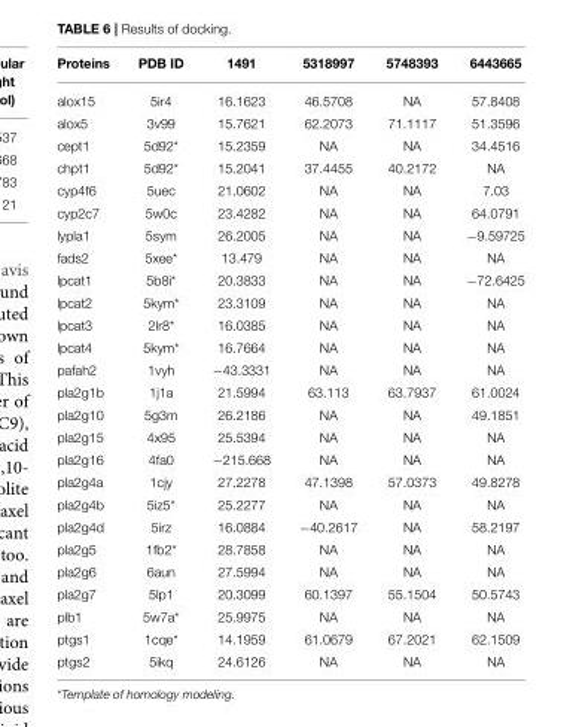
<table><thead><tr><td>Proteins</td><td>PDB ID</td><td>1491</td><td>5318997</td><td>5748393</td><td>6443665</td></tr></thead><tbody><tr><td>alox15</td><td>5ir4</td><td>16.1623</td><td>46.5708</td><td>NA</td><td>57.8408</td></tr><tr><td>alox5</td><td>3v99</td><td>15.7621</td><td>62.2073</td><td>71.1117</td><td>51.3596</td></tr><tr><td>cept1</td><td>5d92*</td><td>15.2359</td><td>NA</td><td>NA</td><td>34.4516</td></tr><tr><td>chpt1</td><td>5d92*</td><td>15.2041</td><td>37.4455</td><td>40.2172</td><td>NA</td></tr><tr><td>cyp4f6</td><td>5uec</td><td>21.0602</td><td>NA</td><td>NA</td><td>7.03</td></tr><tr><td>cyp2c7</td><td>5w0c</td><td>23.4282</td><td>NA</td><td>NA</td><td>64.0791</td></tr><tr><td>lypla1</td><td>5sym</td><td>26.2005</td><td>NA</td><td>NA</td><td>−9.59725</td></tr><tr><td>fads2</td><td>5xee*</td><td>13.479</td><td>NA</td><td>NA</td><td>NA</td></tr><tr><td>lpcat1</td><td>5b8i*</td><td>20.3833</td><td>NA</td><td>NA</td><td>−72.6425</td></tr><tr><td>lpcat2</td><td>5kym*</td><td>23.3109</td><td>NA</td><td>NA</td><td>NA</td></tr><tr><td>lpcat3</td><td>2lr8*</td><td>16.0385</td><td>NA</td><td>NA</td><td>NA</td></tr><tr><td>lpcat4</td><td>5kym*</td><td>16.7664</td><td>NA</td><td>NA</td><td>NA</td></tr><tr><td>pafah2</td><td>1vyh</td><td>−43.3331</td><td>NA</td><td>NA</td><td>NA</td></tr><tr><td>pla2g1b</td><td>1j1a</td><td>21.5994</td><td>63.113</td><td>63.7937</td><td>61.0024</td></tr><tr><td>pla2g10</td><td>5g3m</td><td>26.2186</td><td>NA</td><td>NA</td><td>49.1851</td></tr><tr><td>pla2g15</td><td>4x95</td><td>25.5394</td><td>NA</td><td>NA</td><td>NA</td></tr><tr><td>pla2g16</td><td>4fa0</td><td>−215.668</td><td>NA</td><td>NA</td><td>NA</td></tr><tr><td>pla2g4a</td><td>1cjy</td><td>27.2278</td><td>47.1398</td><td>57.0373</td><td>49.8278</td></tr><tr><td>pla2g4b</td><td>5iz5*</td><td>25.2277</td><td>NA</td><td>NA</td><td>NA</td></tr><tr><td>pla2g4d</td><td>5irz</td><td>16.0884</td><td>−40.2617</td><td>NA</td><td>58.2197</td></tr><tr><td>pla2g5</td><td>1fb2*</td><td>28.7858</td><td>NA</td><td>NA</td><td>NA</td></tr><tr><td>pla2g6</td><td>6aun</td><td>27.5994</td><td>NA</td><td>NA</td><td>NA</td></tr><tr><td>pla2g7</td><td>5lp1</td><td>20.3099</td><td>60.1397</td><td>55.1504</td><td>50.5743</td></tr><tr><td>plb1</td><td>5w7a*</td><td>25.9975</td><td>NA</td><td>NA</td><td>NA</td></tr><tr><td>ptgs1</td><td>1cqe*</td><td>14.1959</td><td>61.0679</td><td>67.2021</td><td>62.1509</td></tr><tr><td>ptgs2</td><td>5ikq</td><td>24.6126</td><td>NA</td><td>NA</td><td>NA</td></tr></tbody></table>